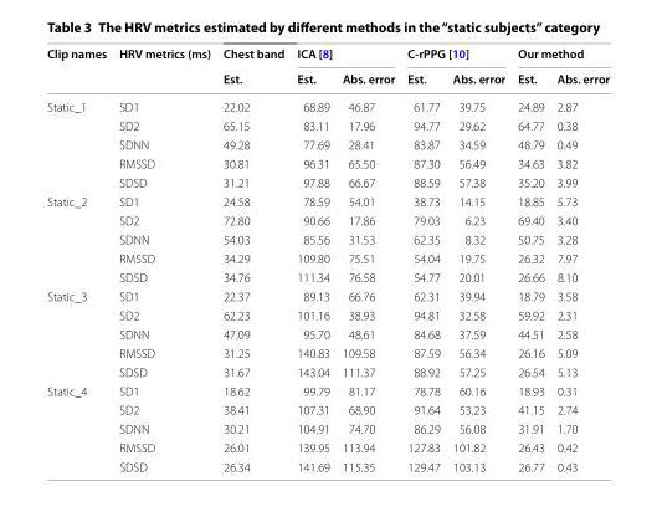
<table><thead><tr><td rowspan="2">Clip names</td><td rowspan="2">HRV metrics (ms)</td><td rowspan="2">Chest band Est.</td><td colspan="2">ICA [8]</td><td colspan="2">C‑rPPG [10]</td><td colspan="2">Our method</td></tr><tr><td>Est.</td><td>Abs. error</td><td>Est.</td><td>Abs. error</td><td>Est.</td><td>Abs. error</td></tr></thead><tbody><tr><td rowspan="5">Static_1</td><td>SD1</td><td>22.02</td><td>68.89</td><td>46.87</td><td>61.77</td><td>39.75</td><td>24.89</td><td>2.87</td></tr><tr><td>SD2</td><td>65.15</td><td>83.11</td><td>17.96</td><td>94.77</td><td>29.62</td><td>64.77</td><td>0.38</td></tr><tr><td>SDNN</td><td>49.28</td><td>77.69</td><td>28.41</td><td>83.87</td><td>34.59</td><td>48.79</td><td>0.49</td></tr><tr><td>RMSSD</td><td>30.81</td><td>96.31</td><td>65.50</td><td>87.30</td><td>56.49</td><td>34.63</td><td>3.82</td></tr><tr><td>SDSD</td><td>31.21</td><td>97.88</td><td>66.67</td><td>88.59</td><td>57.38</td><td>35.20</td><td>3.99</td></tr><tr><td rowspan="5">Static_2</td><td>SD1</td><td>24.58</td><td>78.59</td><td>54.01</td><td>38.73</td><td>14.15</td><td>18.85</td><td>5.73</td></tr><tr><td>SD2</td><td>72.80</td><td>90.66</td><td>17.86</td><td>79.03</td><td>6.23</td><td>69.40</td><td>3.40</td></tr><tr><td>SDNN</td><td>54.03</td><td>85.56</td><td>31.53</td><td>62.35</td><td>8.32</td><td>50.75</td><td>3.28</td></tr><tr><td>RMSSD</td><td>34.29</td><td>109.80</td><td>75.51</td><td>54.04</td><td>19.75</td><td>26.32</td><td>7.97</td></tr><tr><td>SDSD</td><td>34.76</td><td>111.34</td><td>76.58</td><td>54.77</td><td>20.01</td><td>26.66</td><td>8.10</td></tr><tr><td rowspan="5">Static_3</td><td>SD1</td><td>22.37</td><td>89.13</td><td>66.76</td><td>62.31</td><td>39.94</td><td>18.79</td><td>3.58</td></tr><tr><td>SD2</td><td>62.23</td><td>101.16</td><td>38.93</td><td>94.81</td><td>32.58</td><td>59.92</td><td>2.31</td></tr><tr><td>SDNN</td><td>47.09</td><td>95.70</td><td>48.61</td><td>84.68</td><td>37.59</td><td>44.51</td><td>2.58</td></tr><tr><td>RMSSD</td><td>31.25</td><td>140.83</td><td>109.58</td><td>87.59</td><td>56.34</td><td>26.16</td><td>5.09</td></tr><tr><td>SDSD</td><td>31.67</td><td>143.04</td><td>111.37</td><td>88.92</td><td>57.25</td><td>26.54</td><td>5.13</td></tr><tr><td rowspan="5">Static_4</td><td>SD1</td><td>18.62</td><td>99.79</td><td>81.17</td><td>78.78</td><td>60.16</td><td>18.93</td><td>0.31</td></tr><tr><td>SD2</td><td>38.41</td><td>107.31</td><td>68.90</td><td>91.64</td><td>53.23</td><td>41.15</td><td>2.74</td></tr><tr><td>SDNN</td><td>30.21</td><td>104.91</td><td>74.70</td><td>86.29</td><td>56.08</td><td>31.91</td><td>1.70</td></tr><tr><td>RMSSD</td><td>26.01</td><td>139.95</td><td>113.94</td><td>127.83</td><td>101.82</td><td>26.43</td><td>0.42</td></tr><tr><td>SDSD</td><td>26.34</td><td>141.69</td><td>115.35</td><td>129.47</td><td>103.13</td><td>26.77</td><td>0.43</td></tr></tbody></table>